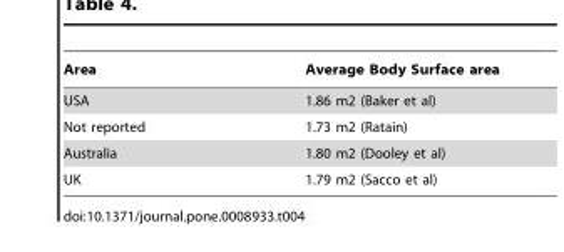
<table><thead><tr><td>Area</td><td>Average Body Surface area</td></tr></thead><tbody><tr><td>USA</td><td>1.86 m2 (Baker et al)</td></tr><tr><td>Not reported</td><td>1.73 m2 (Ratain)</td></tr><tr><td>Australia</td><td>1.80 m2 (Dooley et al)</td></tr><tr><td>UK</td><td>1.79 m2 (Sacco et al)</td></tr></tbody></table>